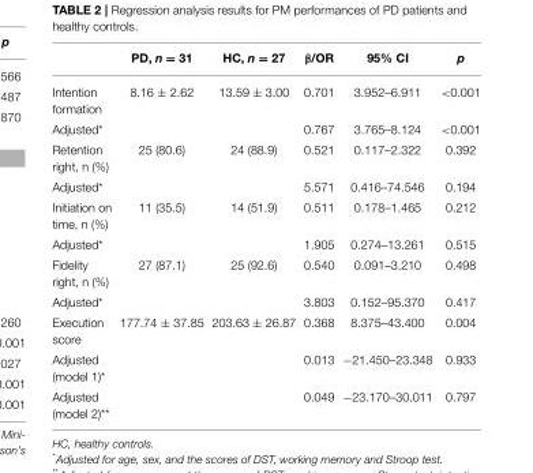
<table><thead><tr><td></td><td>PD, n = 31</td><td>HC, n = 27</td><td>β/OR</td><td>95% CI</td><td>p</td></tr></thead><tbody><tr><td>Intention formation</td><td>8.16 ± 2.62</td><td>13.59 ± 3.00</td><td>0.701</td><td>3.952–6.911</td><td>&lt;0.001</td></tr><tr><td>Adjusted*</td><td></td><td></td><td>0.767</td><td>3.765–8.124</td><td>&lt;0.001</td></tr><tr><td>Retention right, n (%)</td><td>25 (80.6)</td><td>24 (88.9)</td><td>0.521</td><td>0.117–2.322</td><td>0.392</td></tr><tr><td>Adjusted*</td><td></td><td></td><td>5.571</td><td>0.416–74.546</td><td>0.194</td></tr><tr><td>Initiation on time, n (%)</td><td>11 (35.5)</td><td>14 (51.9)</td><td>0.511</td><td>0.178–1.465</td><td>0.212</td></tr><tr><td>Adjusted*</td><td></td><td></td><td>1.905</td><td>0.274–13.261</td><td>0.515</td></tr><tr><td>Fidelity right, n (%)</td><td>27 (87.1)</td><td>25 (92.6)</td><td>0.540</td><td>0.091–3.210</td><td>0.498</td></tr><tr><td>Adjusted*</td><td></td><td></td><td>3.803</td><td>0.152–95.370</td><td>0.417</td></tr><tr><td>Execution score</td><td>177.74 ± 37.85</td><td>203.63 ± 26.87</td><td>0.368</td><td>8.375–43.400</td><td>0.004</td></tr><tr><td>Adjusted (model 1)*</td><td></td><td></td><td>0.013</td><td>−21.450–23.348</td><td>0.933</td></tr><tr><td>Adjusted (model 2)**</td><td></td><td></td><td>0.049</td><td>−23.170–30.011</td><td>0.797</td></tr></tbody></table>